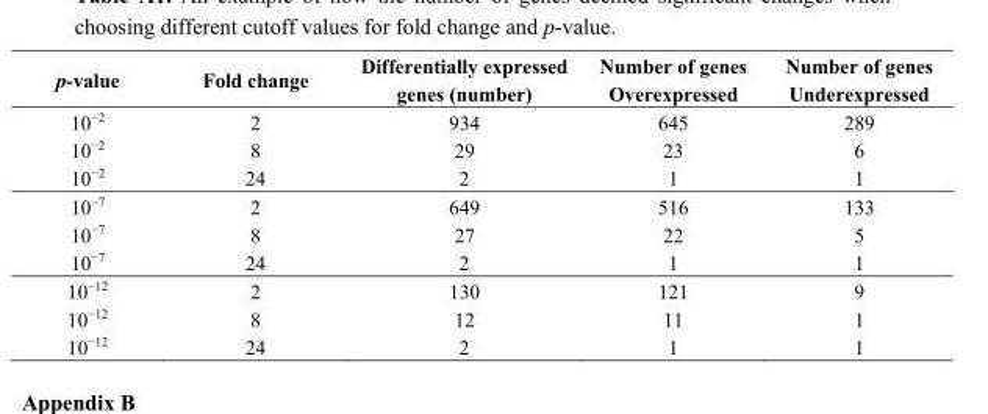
<table><thead><tr><td>p-value</td><td>Fold change</td><td>Differentially expressed genes (number)</td><td>Number of genes Overexpressed</td><td>Number of genes Underexpressed</td></tr></thead><tbody><tr><td>10<sup>−2</sup></td><td>2</td><td>934</td><td>645</td><td>289</td></tr><tr><td>10<sup>−2</sup></td><td>8</td><td>29</td><td>23</td><td>6</td></tr><tr><td>10<sup>−2</sup></td><td>24</td><td>2</td><td>1</td><td>1</td></tr><tr><td>10<sup>−7</sup></td><td>2</td><td>649</td><td>516</td><td>133</td></tr><tr><td>10<sup>−7</sup></td><td>8</td><td>27</td><td>22</td><td>5</td></tr><tr><td>10<sup>−7</sup></td><td>24</td><td>2</td><td>1</td><td>1</td></tr><tr><td>10<sup>−12</sup></td><td>2</td><td>130</td><td>121</td><td>9</td></tr><tr><td>10<sup>−12</sup></td><td>8</td><td>12</td><td>11</td><td>1</td></tr><tr><td>10<sup>−12</sup></td><td>24</td><td>2</td><td>1</td><td>1</td></tr></tbody></table>